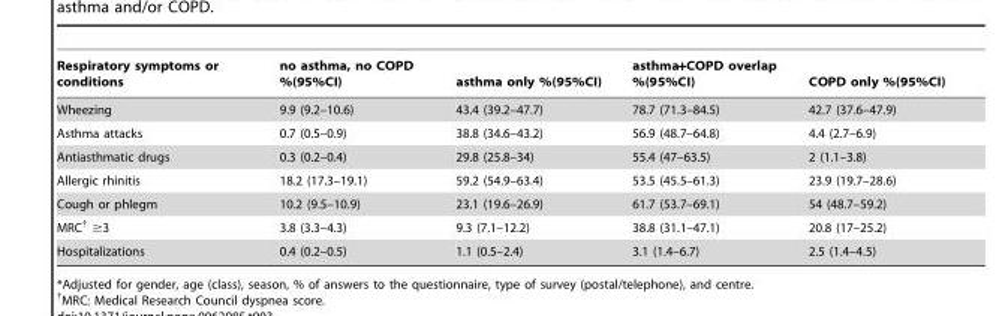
<table><thead><tr><td>Respiratory symptoms or conditions</td><td>no asthma, no COPD %(95%CI)</td><td>asthma only %(95%CI)</td><td>asthma+COPD overlap %(95%CI)</td><td>COPD only %(95%CI)</td></tr></thead><tbody><tr><td>Wheezing</td><td>9.9 (9.2–10.6)</td><td>43.4 (39.2–47.7)</td><td>78.7 (71.3–84.5)</td><td>42.7 (37.6–47.9)</td></tr><tr><td>Asthma attacks</td><td>0.7 (0.5–0.9)</td><td>38.8 (34.6–43.2)</td><td>56.9 (48.7–64.8)</td><td>4.4 (2.7–6.9)</td></tr><tr><td>Antiasthmatic drugs</td><td>0.3 (0.2–0.4)</td><td>29.8 (25.8–34)</td><td>55.4 (47–63.5)</td><td>2 (1.1–3.8)</td></tr><tr><td>Allergic rhinitis</td><td>18.2 (17.3–19.1)</td><td>59.2 (54.9–63.4)</td><td>53.5 (45.5–61.3)</td><td>23.9 (19.7–28.6)</td></tr><tr><td>Cough or phlegm</td><td>10.2 (9.5–10.9)</td><td>23.1 (19.6–26.9)</td><td>61.7 (53.7–69.1)</td><td>54 (48.7–59.2)</td></tr><tr><td>MRC† ≥3</td><td>3.8 (3.3–4.3)</td><td>9.3 (7.1–12.2)</td><td>38.8 (31.1–47.1)</td><td>20.8 (17–25.2)</td></tr><tr><td>Hospitalizations</td><td>0.4 (0.2–0.5)</td><td>1.1 (0.5–2.4)</td><td>3.1 (1.4–6.7)</td><td>2.5 (1.4–4.5)</td></tr></tbody></table>